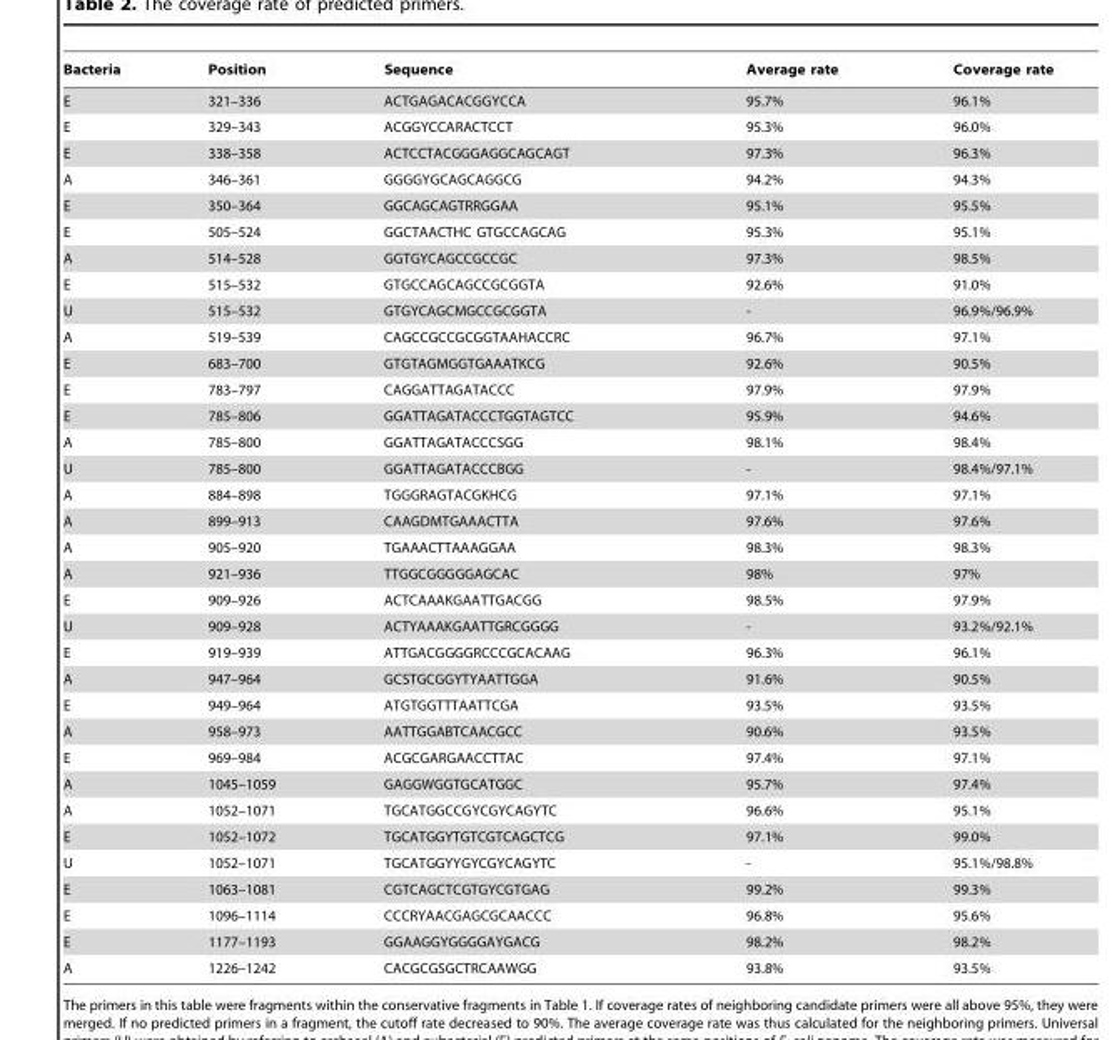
<table><thead><tr><td>Bacteria</td><td>Position</td><td>Sequence</td><td>Average rate</td><td>Coverage rate</td></tr></thead><tbody><tr><td>E</td><td>321–336</td><td>ACTGAGACACGGYCCA</td><td>95.7%</td><td>96.1%</td></tr><tr><td>E</td><td>329–343</td><td>ACGGYCCARACTCCT</td><td>95.3%</td><td>96.0%</td></tr><tr><td>E</td><td>338–358</td><td>ACTCCTACGGGAGGCAGCAGT</td><td>97.3%</td><td>96.3%</td></tr><tr><td>A</td><td>346–361</td><td>GGGGYGCAGCAGGCG</td><td>94.2%</td><td>94.3%</td></tr><tr><td>E</td><td>350–364</td><td>GGCAGCAGTRRGGAA</td><td>95.1%</td><td>95.5%</td></tr><tr><td>E</td><td>505–524</td><td>GGCTAACTHC GTGCCAGCAG</td><td>95.3%</td><td>95.1%</td></tr><tr><td>A</td><td>514–528</td><td>GGTGYCAGCCGCCGC</td><td>97.3%</td><td>98.5%</td></tr><tr><td>E</td><td>515–532</td><td>GTGCCAGCAGCCGCGGTA</td><td>92.6%</td><td>91.0%</td></tr><tr><td>U</td><td>515–532</td><td>GTGYCAGCMGCCGCGGTA</td><td>-</td><td>96.9%/96.9%</td></tr><tr><td>A</td><td>519–539</td><td>CAGCCGCCGCGGTAAHACCRC</td><td>96.7%</td><td>97.1%</td></tr><tr><td>E</td><td>683–700</td><td>GTGTAGMGGTGAAATKCG</td><td>92.6%</td><td>90.5%</td></tr><tr><td>E</td><td>783–797</td><td>CAGGATTAGATACCC</td><td>97.9%</td><td>97.9%</td></tr><tr><td>E</td><td>785–806</td><td>GGATTAGATACCCTGGTAGTCC</td><td>95.9%</td><td>94.6%</td></tr><tr><td>A</td><td>785–800</td><td>GGATTAGATACCCSGG</td><td>98.1%</td><td>98.4%</td></tr><tr><td>U</td><td>785–800</td><td>GGATTAGATACCCBGG</td><td>-</td><td>98.4%/97.1%</td></tr><tr><td>A</td><td>884–898</td><td>TGGGRAGTACGKHCG</td><td>97.1%</td><td>97.1%</td></tr><tr><td>A</td><td>899–913</td><td>CAAGDMTGAAACTTA</td><td>97.6%</td><td>97.6%</td></tr><tr><td>A</td><td>905–920</td><td>TGAAACTTAAAGGAA</td><td>98.3%</td><td>98.3%</td></tr><tr><td>A</td><td>921–936</td><td>TTGGCGGGGGAGCAC</td><td>98%</td><td>97%</td></tr><tr><td>E</td><td>909–926</td><td>ACTCAAAKGAATTGACGG</td><td>98.5%</td><td>97.9%</td></tr><tr><td>U</td><td>909–928</td><td>ACTYAAAKGAATTGRCGGGG</td><td>-</td><td>93.2%/92.1%</td></tr><tr><td>E</td><td>919–939</td><td>ATTGACGGGGRCCCGCACAAG</td><td>96.3%</td><td>96.1%</td></tr><tr><td>A</td><td>947–964</td><td>GCSTGCGGYTYAATTGGA</td><td>91.6%</td><td>90.5%</td></tr><tr><td>E</td><td>949–964</td><td>ATGTGGTTTAATTCGA</td><td>93.5%</td><td>93.5%</td></tr><tr><td>A</td><td>958–973</td><td>AATTGGABTCAACGCC</td><td>90.6%</td><td>93.5%</td></tr><tr><td>E</td><td>969–984</td><td>ACGCGARGAACCTTAC</td><td>97.4%</td><td>97.1%</td></tr><tr><td>A</td><td>1045–1059</td><td>GAGGWGGTGCATGGC</td><td>95.7%</td><td>97.4%</td></tr><tr><td>A</td><td>1052–1071</td><td>TGCATGGCCGYCGYCAGYTC</td><td>96.6%</td><td>95.1%</td></tr><tr><td>E</td><td>1052–1072</td><td>TGCATGGYTGTCGTCAGCTCG</td><td>97.1%</td><td>99.0%</td></tr><tr><td>U</td><td>1052–1071</td><td>TGCATGGYYGYCGYCAGYTC</td><td>-</td><td>95.1%/98.8%</td></tr><tr><td>E</td><td>1063–1081</td><td>CGTCAGCTCGTGYCGTGAG</td><td>99.2%</td><td>99.3%</td></tr><tr><td>E</td><td>1096–1114</td><td>CCCRYAACGAGCGCAACCC</td><td>96.8%</td><td>95.6%</td></tr><tr><td>E</td><td>1177–1193</td><td>GGAAGGYGGGGAYGACG</td><td>98.2%</td><td>98.2%</td></tr><tr><td>A</td><td>1226–1242</td><td>CACGCGSGCTRCAAWGG</td><td>93.8%</td><td>93.5%</td></tr></tbody></table>